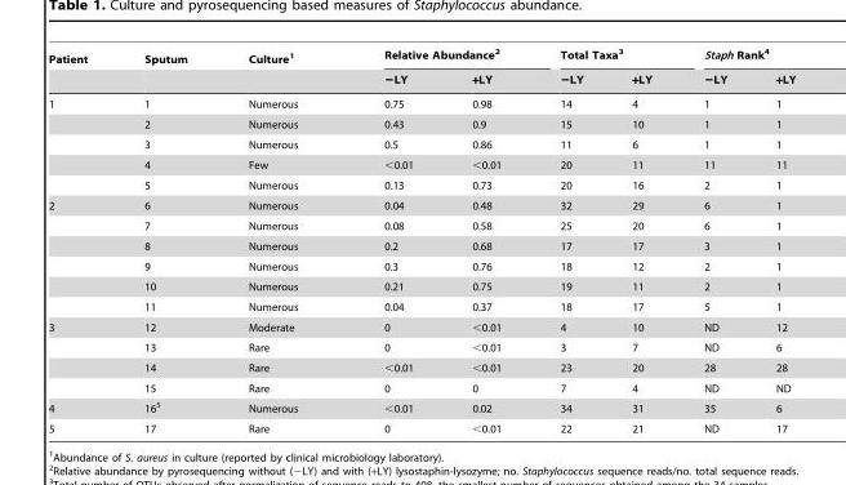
<table><thead><tr><td rowspan="2">Patient</td><td rowspan="2">Sputum</td><td rowspan="2">Culture<sup>1</sup></td><td colspan="2">Relative Abundance<sup>2</sup></td><td colspan="2">Total Taxa<sup>3</sup></td><td colspan="2">Staph Rank<sup>4</sup></td></tr><tr><td>−LY</td><td>+LY</td><td>−LY</td><td>+LY</td><td>−LY</td><td>+LY</td></tr></thead><tbody><tr><td rowspan="5">1</td><td>1</td><td>Numerous</td><td>0.75</td><td>0.98</td><td>14</td><td>4</td><td>1</td><td>1</td></tr><tr><td>2</td><td>Numerous</td><td>0.43</td><td>0.9</td><td>15</td><td>10</td><td>1</td><td>1</td></tr><tr><td>3</td><td>Numerous</td><td>0.5</td><td>0.86</td><td>11</td><td>6</td><td>1</td><td>1</td></tr><tr><td>4</td><td>Few</td><td>&lt;0.01</td><td>&lt;0.01</td><td>20</td><td>11</td><td>11</td><td>11</td></tr><tr><td>5</td><td>Numerous</td><td>0.13</td><td>0.73</td><td>20</td><td>16</td><td>2</td><td>1</td></tr><tr><td rowspan="6">2</td><td>6</td><td>Numerous</td><td>0.04</td><td>0.48</td><td>32</td><td>29</td><td>6</td><td>1</td></tr><tr><td>7</td><td>Numerous</td><td>0.08</td><td>0.58</td><td>25</td><td>20</td><td>6</td><td>1</td></tr><tr><td>8</td><td>Numerous</td><td>0.2</td><td>0.68</td><td>17</td><td>17</td><td>3</td><td>1</td></tr><tr><td>9</td><td>Numerous</td><td>0.3</td><td>0.76</td><td>18</td><td>12</td><td>2</td><td>1</td></tr><tr><td>10</td><td>Numerous</td><td>0.21</td><td>0.75</td><td>19</td><td>11</td><td>2</td><td>1</td></tr><tr><td>11</td><td>Numerous</td><td>0.04</td><td>0.37</td><td>18</td><td>17</td><td>5</td><td>1</td></tr><tr><td rowspan="4">3</td><td>12</td><td>Moderate</td><td>0</td><td>&lt;0.01</td><td>4</td><td>10</td><td>ND</td><td>12</td></tr><tr><td>13</td><td>Rare</td><td>0</td><td>&lt;0.01</td><td>3</td><td>7</td><td>ND</td><td>6</td></tr><tr><td>14</td><td>Rare</td><td>&lt;0.01</td><td>&lt;0.01</td><td>23</td><td>20</td><td>28</td><td>28</td></tr><tr><td>15</td><td>Rare</td><td>0</td><td>0</td><td>7</td><td>4</td><td>ND</td><td>ND</td></tr><tr><td>4</td><td>16<sup>5</sup></td><td>Numerous</td><td>&lt;0.01</td><td>0.02</td><td>34</td><td>31</td><td>35</td><td>6</td></tr><tr><td>5</td><td>17</td><td>Rare</td><td>0</td><td>&lt;0.01</td><td>22</td><td>21</td><td>ND</td><td>17</td></tr></tbody></table>